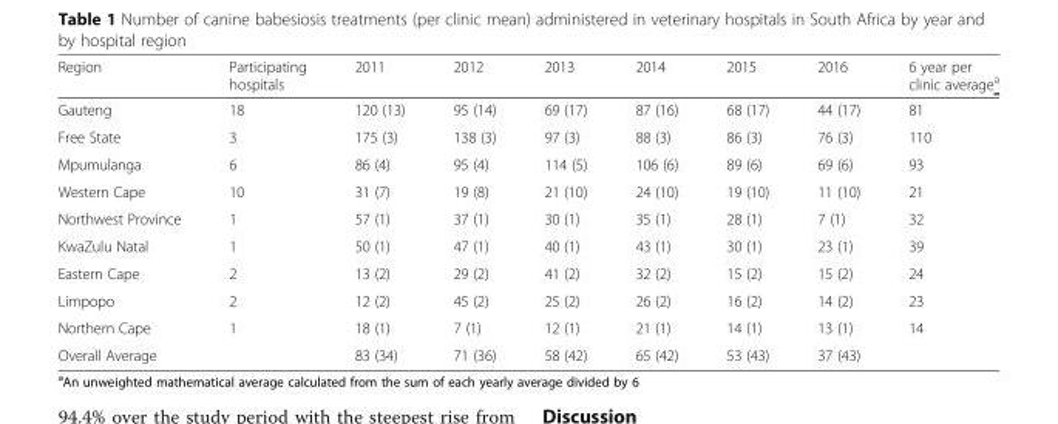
<table><thead><tr><td>Region</td><td>Participating hospitals</td><td>2011</td><td>2012</td><td>2013</td><td>2014</td><td>2015</td><td>2016</td><td>6 year per clinic average<sup>a</sup></td></tr></thead><tbody><tr><td>Gauteng</td><td>18</td><td>120 (13)</td><td>95 (14)</td><td>69 (17)</td><td>87 (16)</td><td>68 (17)</td><td>44 (17)</td><td>81</td></tr><tr><td>Free State</td><td>3</td><td>175 (3)</td><td>138 (3)</td><td>97 (3)</td><td>88 (3)</td><td>86 (3)</td><td>76 (3)</td><td>110</td></tr><tr><td>Mpumulanga</td><td>6</td><td>86 (4)</td><td>95 (4)</td><td>114 (5)</td><td>106 (6)</td><td>89 (6)</td><td>69 (6)</td><td>93</td></tr><tr><td>Western Cape</td><td>10</td><td>31 (7)</td><td>19 (8)</td><td>21 (10)</td><td>24 (10)</td><td>19 (10)</td><td>11 (10)</td><td>21</td></tr><tr><td>Northwest Province</td><td>1</td><td>57 (1)</td><td>37 (1)</td><td>30 (1)</td><td>35 (1)</td><td>28 (1)</td><td>7 (1)</td><td>32</td></tr><tr><td>KwaZulu Natal</td><td>1</td><td>50 (1)</td><td>47 (1)</td><td>40 (1)</td><td>43 (1)</td><td>30 (1)</td><td>23 (1)</td><td>39</td></tr><tr><td>Eastern Cape</td><td>2</td><td>13 (2)</td><td>29 (2)</td><td>41 (2)</td><td>32 (2)</td><td>15 (2)</td><td>15 (2)</td><td>24</td></tr><tr><td>Limpopo</td><td>2</td><td>12 (2)</td><td>45 (2)</td><td>25 (2)</td><td>26 (2)</td><td>16 (2)</td><td>14 (2)</td><td>23</td></tr><tr><td>Northern Cape</td><td>1</td><td>18 (1)</td><td>7 (1)</td><td>12 (1)</td><td>21 (1)</td><td>14 (1)</td><td>13 (1)</td><td>14</td></tr><tr><td>Overall Average</td><td></td><td>83 (34)</td><td>71 (36)</td><td>58 (42)</td><td>65 (42)</td><td>53 (43)</td><td>37 (43)</td><td></td></tr></tbody></table>